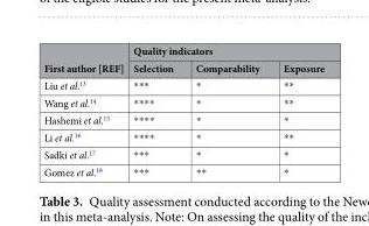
<table><thead><tr><td rowspan="2">First author [REF]</td><td colspan="3">Quality indicators</td></tr><tr><td>Selection</td><td>Comparability</td><td>Exposure</td></tr></thead><tbody><tr><td>Liu et al.<sup>13</sup></td><td>***</td><td>*</td><td>**</td></tr><tr><td>Wang et al.<sup>14</sup></td><td>****</td><td>*</td><td>**</td></tr><tr><td>Hashemi et al.<sup>15</sup></td><td>****</td><td>*</td><td>*</td></tr><tr><td>Li et al.<sup>16</sup></td><td>****</td><td>*</td><td>**</td></tr><tr><td>Sadki et al.<sup>17</sup></td><td>***</td><td>*</td><td>*</td></tr><tr><td>Gomez et al.<sup>18</sup></td><td>***</td><td>**</td><td>*</td></tr></tbody></table>